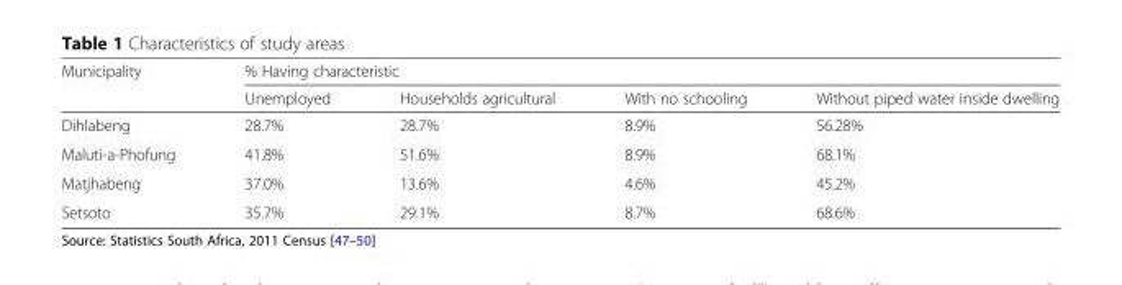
<table><thead><tr><td rowspan="2">Municipality</td><td colspan="4">% Having characteristic</td></tr><tr><td>Unemployed</td><td>Households agricultural</td><td>With no schooling</td><td>Without piped water inside dwelling</td></tr></thead><tbody><tr><td>Dihlabeng</td><td>28.7%</td><td>28.7%</td><td>8.9%</td><td>56.28%</td></tr><tr><td>Maluti-a-Phofung</td><td>41.8%</td><td>51.6%</td><td>8.9%</td><td>68.1%</td></tr><tr><td>Matjhabeng</td><td>37.0%</td><td>13.6%</td><td>4.6%</td><td>45.2%</td></tr><tr><td>Setsoto</td><td>35.7%</td><td>29.1%</td><td>8.7%</td><td>68.6%</td></tr></tbody></table>